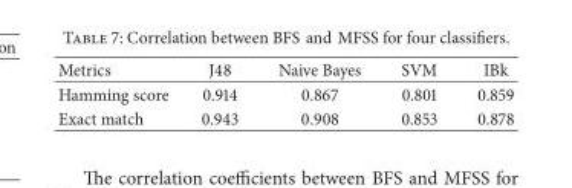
<table><thead><tr><td>Metrics</td><td>J48</td><td>Naive Bayes</td><td>SVM</td><td>IBk</td></tr></thead><tbody><tr><td>Hamming score</td><td>0.914</td><td>0.867</td><td>0.801</td><td>0.859</td></tr><tr><td>Exact match</td><td>0.943</td><td>0.908</td><td>0.853</td><td>0.878</td></tr></tbody></table>